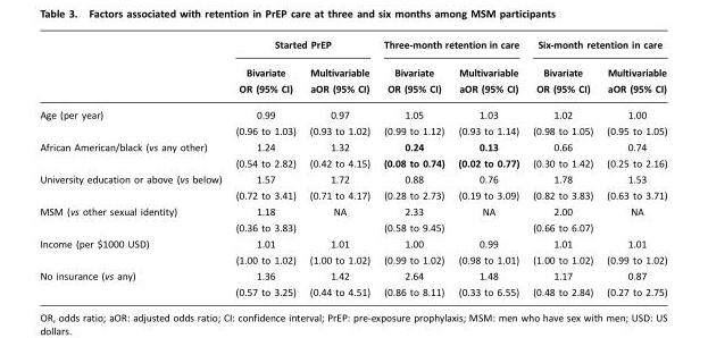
<table><thead><tr><td rowspan="2"></td><td colspan="2">Started PrEP</td><td colspan="2">Three-month retention in care</td><td colspan="2">Six-month retention in care</td></tr><tr><td>Bivariate OR (95% CI)</td><td>Multivariable aOR (95% CI)</td><td>Bivariate OR (95% CI)</td><td>Multivariable aOR (95% CI)</td><td>Bivariate OR (95% CI)</td><td>Multivariable aOR (95% CI)</td></tr></thead><tbody><tr><td>Age (per year)</td><td>0.99 (0.96 to 1.03)</td><td>0.97 (0.93 to 1.02)</td><td>1.05 (0.99 to 1.12)</td><td>1.03 (0.93 to 1.14)</td><td>1.02 (0.98 to 1.05)</td><td>1.00 (0.95 to 1.05)</td></tr><tr><td>African American/black (vs any other)</td><td>1.24 (0.54 to 2.82)</td><td>1.32 (0.42 to 4.15)</td><td>0.24 (0.08 to 0.74)</td><td>0.13 (0.02 to 0.77)</td><td>0.66 (0.30 to 1.42)</td><td>0.74 (0.25 to 2.16)</td></tr><tr><td>University education or above (vs below)</td><td>1.57 (0.72 to 3.41)</td><td>1.72 (0.71 to 4.17)</td><td>0.88 (0.28 to 2.73)</td><td>0.76 (0.19 to 3.09)</td><td>1.78 (0.82 to 3.83)</td><td>1.53 (0.63 to 3.71)</td></tr><tr><td>MSM (vs other sexual identity)</td><td>1.18 (0.36 to 3.83)</td><td>NA</td><td>2.33 (0.58 to 9.45)</td><td>NA</td><td>2.00 (0.66 to 6.07)</td><td>NA</td></tr><tr><td>Income (per $1000 USD)</td><td>1.01 (1.00 to 1.02)</td><td>1.01 (1.00 to 1.02)</td><td>1.00 (0.99 to 1.02)</td><td>0.99 (0.98 to 1.01)</td><td>1.01 (1.00 to 1.02)</td><td>1.01 (0.99 to 1.02)</td></tr><tr><td>No insurance (vs any)</td><td>1.36 (0.57 to 3.25)</td><td>1.42 (0.44 to 4.51)</td><td>2.64 (0.86 to 8.11)</td><td>1.48 (0.33 to 6.55)</td><td>1.17 (0.48 to 2.84)</td><td>0.87 (0.27 to 2.75)</td></tr></tbody></table>